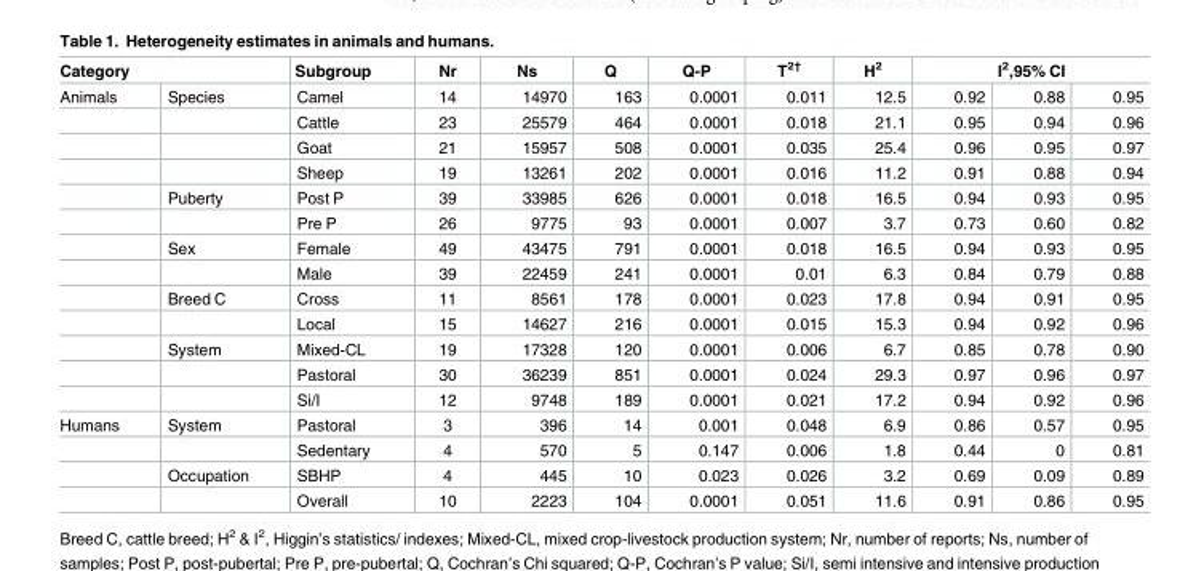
<table><thead><tr><td colspan="2">Category</td><td rowspan="2">Subgroup Camel</td><td rowspan="2">Nr 14</td><td rowspan="2">Ns 14970</td><td rowspan="2">Q 163</td><td rowspan="2">Q-P 0.0001</td><td rowspan="2">T<sup>2†</sup> 0.011</td><td rowspan="2">H<sup>2</sup> 12.5</td><td colspan="3">I<sup>2</sup>,95% CI</td></tr><tr><td>Animals</td><td>Species</td><td>0.92</td><td>0.88</td><td>0.95</td></tr></thead><tbody><tr><td></td><td></td><td>Cattle</td><td>23</td><td>25579</td><td>464</td><td>0.0001</td><td>0.018</td><td>21.1</td><td>0.95</td><td>0.94</td><td>0.96</td></tr><tr><td></td><td></td><td>Goat</td><td>21</td><td>15957</td><td>508</td><td>0.0001</td><td>0.035</td><td>25.4</td><td>0.96</td><td>0.95</td><td>0.97</td></tr><tr><td></td><td></td><td>Sheep</td><td>19</td><td>13261</td><td>202</td><td>0.0001</td><td>0.016</td><td>11.2</td><td>0.91</td><td>0.88</td><td>0.94</td></tr><tr><td></td><td>Puberty</td><td>Post P</td><td>39</td><td>33985</td><td>626</td><td>0.0001</td><td>0.018</td><td>16.5</td><td>0.94</td><td>0.93</td><td>0.95</td></tr><tr><td></td><td></td><td>Pre P</td><td>26</td><td>9775</td><td>93</td><td>0.0001</td><td>0.007</td><td>3.7</td><td>0.73</td><td>0.60</td><td>0.82</td></tr><tr><td></td><td>Sex</td><td>Female</td><td>49</td><td>43475</td><td>791</td><td>0.0001</td><td>0.018</td><td>16.5</td><td>0.94</td><td>0.93</td><td>0.95</td></tr><tr><td></td><td></td><td>Male</td><td>39</td><td>22459</td><td>241</td><td>0.0001</td><td>0.01</td><td>6.3</td><td>0.84</td><td>0.79</td><td>0.88</td></tr><tr><td></td><td>Breed C</td><td>Cross</td><td>11</td><td>8561</td><td>178</td><td>0.0001</td><td>0.023</td><td>17.8</td><td>0.94</td><td>0.91</td><td>0.95</td></tr><tr><td></td><td></td><td>Local</td><td>15</td><td>14627</td><td>216</td><td>0.0001</td><td>0.015</td><td>15.3</td><td>0.94</td><td>0.92</td><td>0.96</td></tr><tr><td></td><td>System</td><td>Mixed-CL</td><td>19</td><td>17328</td><td>120</td><td>0.0001</td><td>0.006</td><td>6.7</td><td>0.85</td><td>0.78</td><td>0.90</td></tr><tr><td></td><td></td><td>Pastoral</td><td>30</td><td>36239</td><td>851</td><td>0.0001</td><td>0.024</td><td>29.3</td><td>0.97</td><td>0.96</td><td>0.97</td></tr><tr><td></td><td></td><td>Si/I</td><td>12</td><td>9748</td><td>189</td><td>0.0001</td><td>0.021</td><td>17.2</td><td>0.94</td><td>0.92</td><td>0.96</td></tr><tr><td rowspan="4">Humans</td><td>System</td><td>Pastoral</td><td>3</td><td>396</td><td>14</td><td>0.001</td><td>0.048</td><td>6.9</td><td>0.86</td><td>0.57</td><td>0.95</td></tr><tr><td></td><td>Sedentary</td><td>4</td><td>570</td><td>5</td><td>0.147</td><td>0.006</td><td>1.8</td><td>0.44</td><td>0</td><td>0.81</td></tr><tr><td>Occupation</td><td>SBHP</td><td>4</td><td>445</td><td>10</td><td>0.023</td><td>0.026</td><td>3.2</td><td>0.69</td><td>0.09</td><td>0.89</td></tr><tr><td></td><td>Overall</td><td>10</td><td>2223</td><td>104</td><td>0.0001</td><td>0.051</td><td>11.6</td><td>0.91</td><td>0.86</td><td>0.95</td></tr></tbody></table>